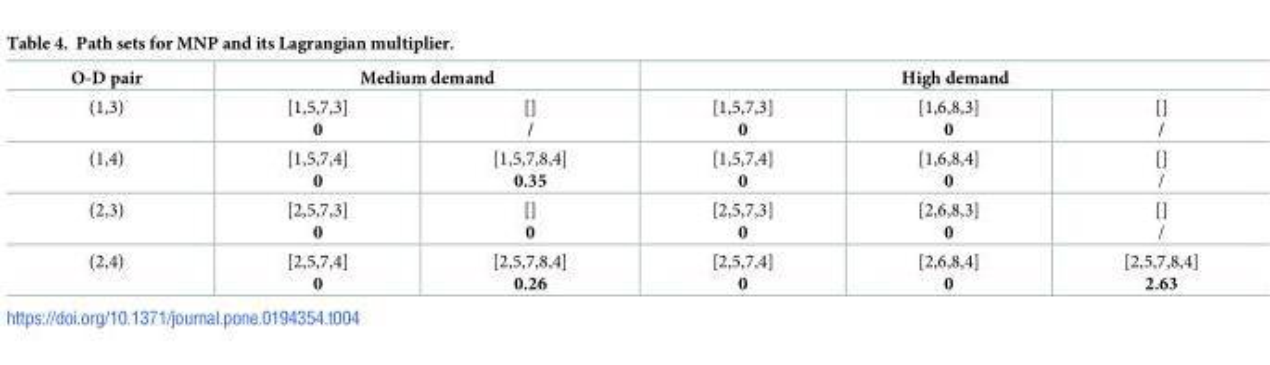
<table><thead><tr><td rowspan="2">O-D pair (1,3)</td><td colspan="2">Medium demand</td><td colspan="3">High demand</td></tr><tr><td>[1,5,7,3] 0</td><td>[] /</td><td>[1,5,7,3] 0</td><td>[1,6,8,3] 0</td><td>[] /</td></tr></thead><tbody><tr><td>(1,4)</td><td>[1,5,7,4] 0</td><td>[1,5,7,8,4] 0.35</td><td>[1,5,7,4] 0</td><td>[1,6,8,4] 0</td><td>[] /</td></tr><tr><td>(2,3)</td><td>[2,5,7,3] 0</td><td>[] 0</td><td>[2,5,7,3] 0</td><td>[2,6,8,3] 0</td><td>[] /</td></tr><tr><td>(2,4)</td><td>[2,5,7,4] 0</td><td>[2,5,7,8,4] 0.26</td><td>[2,5,7,4] 0</td><td>[2,6,8,4] 0</td><td>[2,5,7,8,4] 2.63</td></tr></tbody></table>